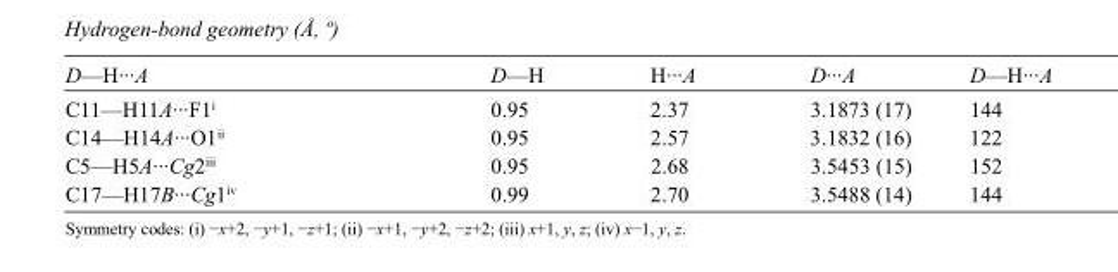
<table><tbody><tr><td>D—H···A</td><td>D—H</td><td>H···A</td><td>D···A</td><td>D—H···A</td></tr><tr><td>C11—H11A···F1<sup>i</sup></td><td>0.95</td><td>2.37</td><td>3.1873 (17)</td><td>144</td></tr><tr><td>C14—H14A···O1<sup>ii</sup></td><td>0.95</td><td>2.57</td><td>3.1832 (16)</td><td>122</td></tr><tr><td>C5—H5A···Cg2<sup>iii</sup></td><td>0.95</td><td>2.68</td><td>3.5453 (15)</td><td>152</td></tr><tr><td>C17—H17B···Cg1<sup>iv</sup></td><td>0.99</td><td>2.70</td><td>3.5488 (14)</td><td>144</td></tr></tbody></table>